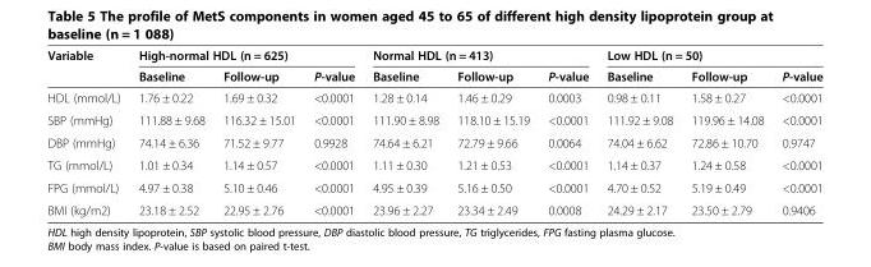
<table><thead><tr><td rowspan="2">Variable</td><td colspan="3">High-normal HDL (n = 625)</td><td colspan="3">Normal HDL (n = 413)</td><td colspan="3">Low HDL (n = 50)</td></tr><tr><td>Baseline</td><td>Follow-up</td><td>P-value</td><td>Baseline</td><td>Follow-up</td><td>P-value</td><td>Baseline</td><td>Follow-up</td><td>P-value</td></tr></thead><tbody><tr><td>HDL (mmol/L)</td><td>1.76 ± 0.22</td><td>1.69 ± 0.32</td><td>&lt;0.0001</td><td>1.28 ± 0.14</td><td>1.46 ± 0.29</td><td>0.0003</td><td>0.98 ± 0.11</td><td>1.58 ± 0.27</td><td>&lt;0.0001</td></tr><tr><td>SBP (mmHg)</td><td>111.88 ± 9.68</td><td>116.32 ± 15.01</td><td>&lt;0.0001</td><td>111.90 ± 8.98</td><td>118.10 ± 15.19</td><td>&lt;0.0001</td><td>111.92 ± 9.08</td><td>119.96 ± 14.08</td><td>&lt;0.0001</td></tr><tr><td>DBP (mmHg)</td><td>74.14 ± 6.36</td><td>71.52 ± 9.77</td><td>0.9928</td><td>74.64 ± 6.21</td><td>72.79 ± 9.66</td><td>0.0064</td><td>74.04 ± 6.62</td><td>72.86 ± 10.70</td><td>0.9747</td></tr><tr><td>TG (mmol/L)</td><td>1.01 ± 0.34</td><td>1.14 ± 0.57</td><td>&lt;0.0001</td><td>1.11 ± 0.30</td><td>1.21 ± 0.53</td><td>&lt;0.0001</td><td>1.14 ± 0.37</td><td>1.24 ± 0.58</td><td>&lt;0.0001</td></tr><tr><td>FPG (mmol/L)</td><td>4.97 ± 0.38</td><td>5.10 ± 0.46</td><td>&lt;0.0001</td><td>4.95 ± 0.39</td><td>5.16 ± 0.50</td><td>&lt;0.0001</td><td>4.70 ± 0.52</td><td>5.19 ± 0.49</td><td>&lt;0.0001</td></tr><tr><td>BMI (kg/m2)</td><td>23.18 ± 2.52</td><td>22.95 ± 2.76</td><td>&lt;0.0001</td><td>23.96 ± 2.27</td><td>23.34 ± 2.49</td><td>0.0008</td><td>24.29 ± 2.17</td><td>23.50 ± 2.79</td><td>0.9406</td></tr></tbody></table>